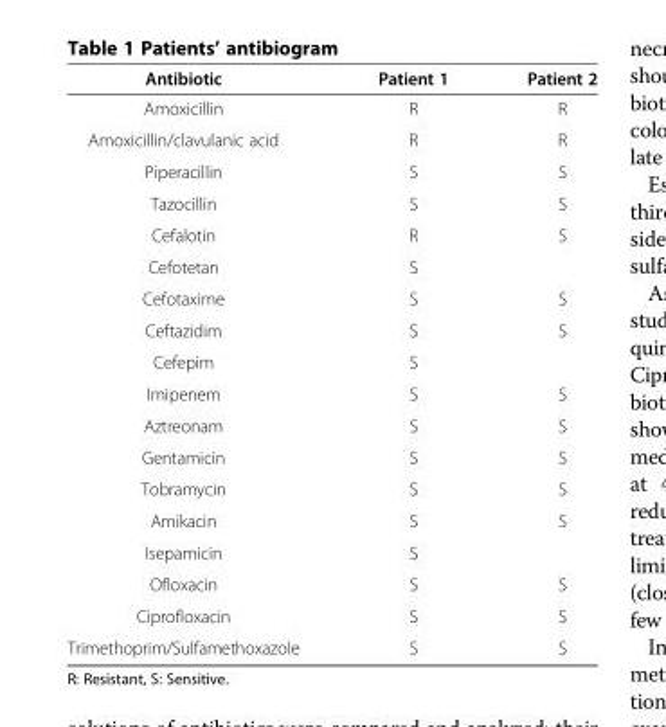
<table><thead><tr><td>Antibiotic</td><td>Patient 1</td><td>Patient 2</td></tr></thead><tbody><tr><td>Amoxicillin</td><td>R</td><td>R</td></tr><tr><td>Amoxicillin/clavulanic acid</td><td>R</td><td>R</td></tr><tr><td>Piperacillin</td><td>S</td><td>S</td></tr><tr><td>Tazocillin</td><td>S</td><td>S</td></tr><tr><td>Cefalotin</td><td>R</td><td>S</td></tr><tr><td>Cefotetan</td><td>S</td><td></td></tr><tr><td>Cefotaxime</td><td>S</td><td>S</td></tr><tr><td>Ceftazidim</td><td>S</td><td>S</td></tr><tr><td>Cefepim</td><td>S</td><td></td></tr><tr><td>Imipenem</td><td>S</td><td>S</td></tr><tr><td>Aztreonam</td><td>S</td><td>S</td></tr><tr><td>Gentamicin</td><td>S</td><td>S</td></tr><tr><td>Tobramycin</td><td>S</td><td>S</td></tr><tr><td>Amikacin</td><td>S</td><td>S</td></tr><tr><td>Isepamicin</td><td>S</td><td></td></tr><tr><td>Ofloxacin</td><td>S</td><td>S</td></tr><tr><td>Ciprofloxacin</td><td>S</td><td>S</td></tr><tr><td>Trimethoprim/Sulfamethoxazole</td><td>S</td><td>S</td></tr></tbody></table>